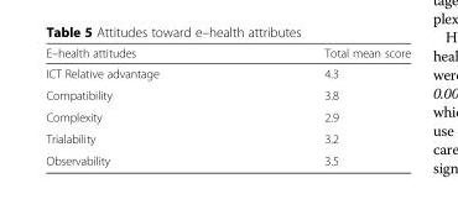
<table><thead><tr><td>E–health attitudes</td><td>Total mean score</td></tr></thead><tbody><tr><td>ICT Relative advantage</td><td>4.3</td></tr><tr><td>Compatibility</td><td>3.8</td></tr><tr><td>Complexity</td><td>2.9</td></tr><tr><td>Trialability</td><td>3.2</td></tr><tr><td>Observability</td><td>3.5</td></tr></tbody></table>